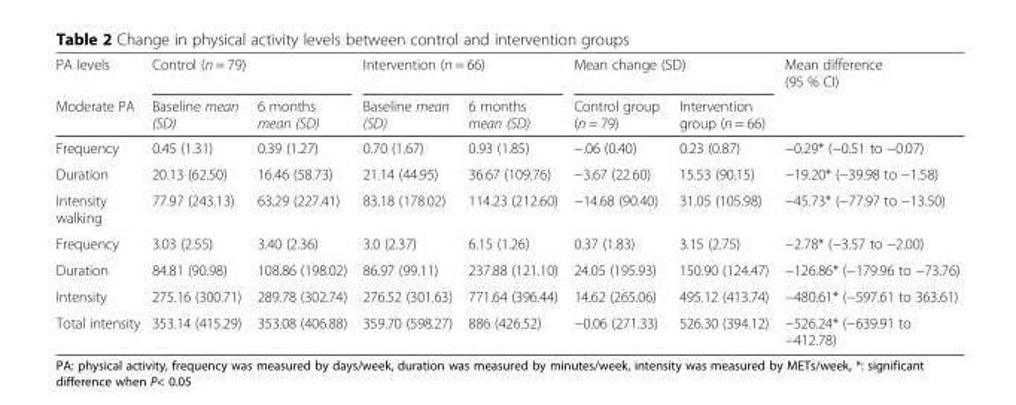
<table><thead><tr><td rowspan="2">PA levels Moderate PA</td><td colspan="2">Control (n = 79)</td><td colspan="2">Intervention (n = 66)</td><td colspan="2">Mean change (SD)</td><td rowspan="2">Mean difference (95 % CI)</td></tr><tr><td>Baseline mean (SD)</td><td>6 months mean (SD)</td><td>Baseline mean (SD)</td><td>6 months mean (SD)</td><td>Control group (n = 79)</td><td>Intervention group (n = 66)</td></tr></thead><tbody><tr><td>Frequency</td><td>0.45 (1.31)</td><td>0.39 (1.27)</td><td>0.70 (1.67)</td><td>0.93 (1.85)</td><td>−.06 (0.40)</td><td>0.23 (0.87)</td><td>−0.29* (−0.51 to −0.07)</td></tr><tr><td>Duration</td><td>20.13 (62.50)</td><td>16.46 (58.73)</td><td>21.14 (44.95)</td><td>36.67 (109.76)</td><td>−3.67 (22.60)</td><td>15.53 (90.15)</td><td>−19.20* (−39.98 to −1.58)</td></tr><tr><td>Intensity walking</td><td>77.97 (243.13)</td><td>63.29 (227.41)</td><td>83.18 (178.02)</td><td>114.23 (212.60)</td><td>−14.68 (90.40)</td><td>31.05 (105.98)</td><td>−45.73* (−77.97 to −13.50)</td></tr><tr><td>Frequency</td><td>3.03 (2.55)</td><td>3.40 (2.36)</td><td>3.0 (2.37)</td><td>6.15 (1.26)</td><td>0.37 (1.83)</td><td>3.15 (2.75)</td><td>−2.78* (−3.57 to −2.00)</td></tr><tr><td>Duration</td><td>84.81 (90.98)</td><td>108.86 (198.02)</td><td>86.97 (99.11)</td><td>237.88 (121.10)</td><td>24.05 (195.93)</td><td>150.90 (124.47)</td><td>−126.86* (−179.96 to −73.76)</td></tr><tr><td>Intensity</td><td>275.16 (300.71)</td><td>289.78 (302.74)</td><td>276.52 (301.63)</td><td>771.64 (396.44)</td><td>14.62 (265.06)</td><td>495.12 (413.74)</td><td>−480.61* (−597.61 to 363.61)</td></tr><tr><td>Total intensity</td><td>353.14 (415.29)</td><td>353.08 (406.88)</td><td>359.70 (598.27)</td><td>886 (426.52)</td><td>−0.06 (271.33)</td><td>526.30 (394.12)</td><td>−526.24* (−639.91 to −412.78)</td></tr></tbody></table>